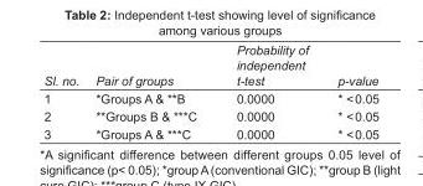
<table><tbody><tr><td>Sl. no.</td><td>Pair of groups</td><td>Probability of independent t-test</td><td>p-value</td></tr><tr><td>1</td><td>*Groups A &amp; **B</td><td>0.0000</td><td>* &lt; 0.05</td></tr><tr><td>2</td><td>**Groups B &amp; ***C</td><td>0.0000</td><td>* &lt; 0.05</td></tr><tr><td>3</td><td>*Groups A &amp; ***C</td><td>0.0000</td><td>* &lt; 0.05</td></tr></tbody></table>